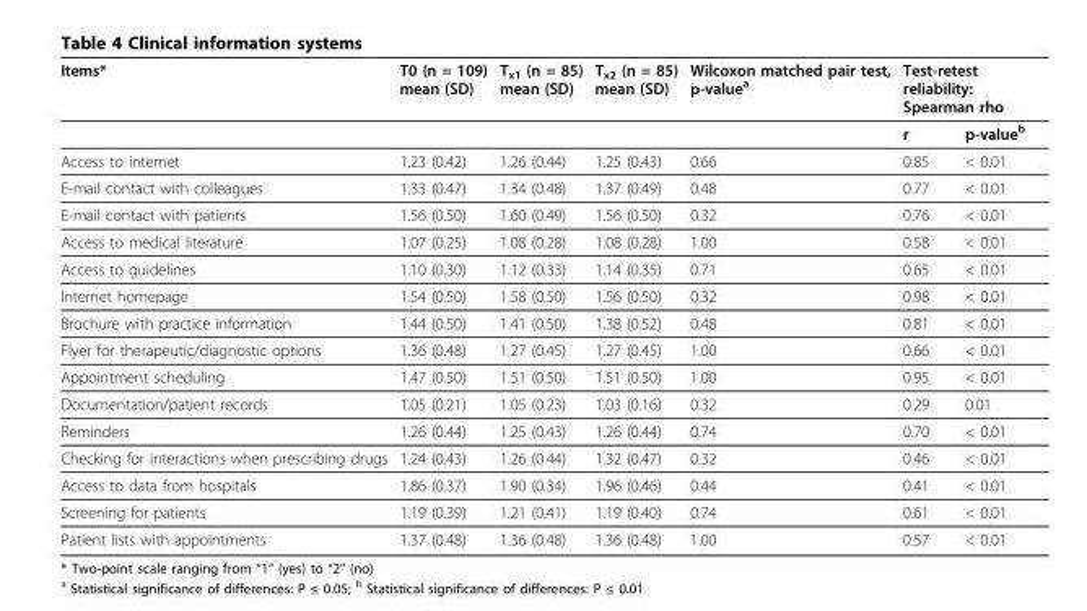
<table><thead><tr><td rowspan="2">Items*</td><td rowspan="2">T0 (n = 109) mean (SD)</td><td rowspan="2">T<sub>x1</sub> (n = 85) mean (SD)</td><td rowspan="2">T<sub>x2</sub> (n = 85) mean (SD)</td><td rowspan="2">Wilcoxon matched pair test, p-value<sup>a</sup></td><td colspan="2">Test-retest reliability: Spearman rho</td></tr><tr><td>r</td><td>p-value<sup>b</sup></td></tr></thead><tbody><tr><td>Access to internet</td><td>1.23 (0.42)</td><td>1.26 (0.44)</td><td>1.25 (0.43)</td><td>0.66</td><td>0.85</td><td>&lt; 0.01</td></tr><tr><td>E-mail contact with colleagues</td><td>1.33 (0.47)</td><td>1.34 (0.48)</td><td>1.37 (0.49)</td><td>0.48</td><td>0.77</td><td>&lt; 0.01</td></tr><tr><td>E-mail contact with patients</td><td>1.56 (0.50)</td><td>1.60 (0.49)</td><td>1.56 (0.50)</td><td>0.32</td><td>0.76</td><td>&lt; 0.01</td></tr><tr><td>Access to medical literature</td><td>1.07 (0.25)</td><td>1.08 (0.28)</td><td>1.08 (0.28)</td><td>1.00</td><td>0.58</td><td>&lt; 0.01</td></tr><tr><td>Access to guidelines</td><td>1.10 (0.30)</td><td>1.12 (0.33)</td><td>1.14 (0.35)</td><td>0.71</td><td>0.65</td><td>&lt; 0.01</td></tr><tr><td>Internet homepage</td><td>1.54 (0.50)</td><td>1.58 (0.50)</td><td>1.56 (0.50)</td><td>0.32</td><td>0.98</td><td>&lt; 0.01</td></tr><tr><td>Brochure with practice information</td><td>1.44 (0.50)</td><td>1.41 (0.50)</td><td>1.38 (0.52)</td><td>0.48</td><td>0.81</td><td>&lt; 0.01</td></tr><tr><td>Flyer for therapeutic/diagnostic options</td><td>1.36 (0.48)</td><td>1.27 (0.45)</td><td>1.27 (0.45)</td><td>1.00</td><td>0.66</td><td>&lt; 0.01</td></tr><tr><td>Appointment scheduling</td><td>1.47 (0.50)</td><td>1.51 (0.50)</td><td>1.51 (0.50)</td><td>1.00</td><td>0.95</td><td>&lt; 0.01</td></tr><tr><td>Documentation/patient records</td><td>1.05 (0.21)</td><td>1.05 (0.23)</td><td>1.03 (0.16)</td><td>0.32</td><td>0.29</td><td>0.01</td></tr><tr><td>Reminders</td><td>1.26 (0.44)</td><td>1.25 (0.43)</td><td>1.26 (0.44)</td><td>0.74</td><td>0.70</td><td>&lt; 0.01</td></tr><tr><td>Checking for interactions when prescribing drugs</td><td>1.24 (0.43)</td><td>1.26 (0.44)</td><td>1.32 (0.47)</td><td>0.32</td><td>0.46</td><td>&lt; 0.01</td></tr><tr><td>Access to data from hospitals</td><td>1.86 (0.37)</td><td>1.90 (0.34)</td><td>1.96 (0.46)</td><td>0.44</td><td>0.41</td><td>&lt; 0.01</td></tr><tr><td>Screening for patients</td><td>1.19 (0.39)</td><td>1.21 (0.41)</td><td>1.19 (0.40)</td><td>0.74</td><td>0.61</td><td>&lt; 0.01</td></tr><tr><td>Patient lists with appointments</td><td>1.37 (0.48)</td><td>1.36 (0.48)</td><td>1.36 (0.48)</td><td>1.00</td><td>0.57</td><td>&lt; 0.01</td></tr></tbody></table>